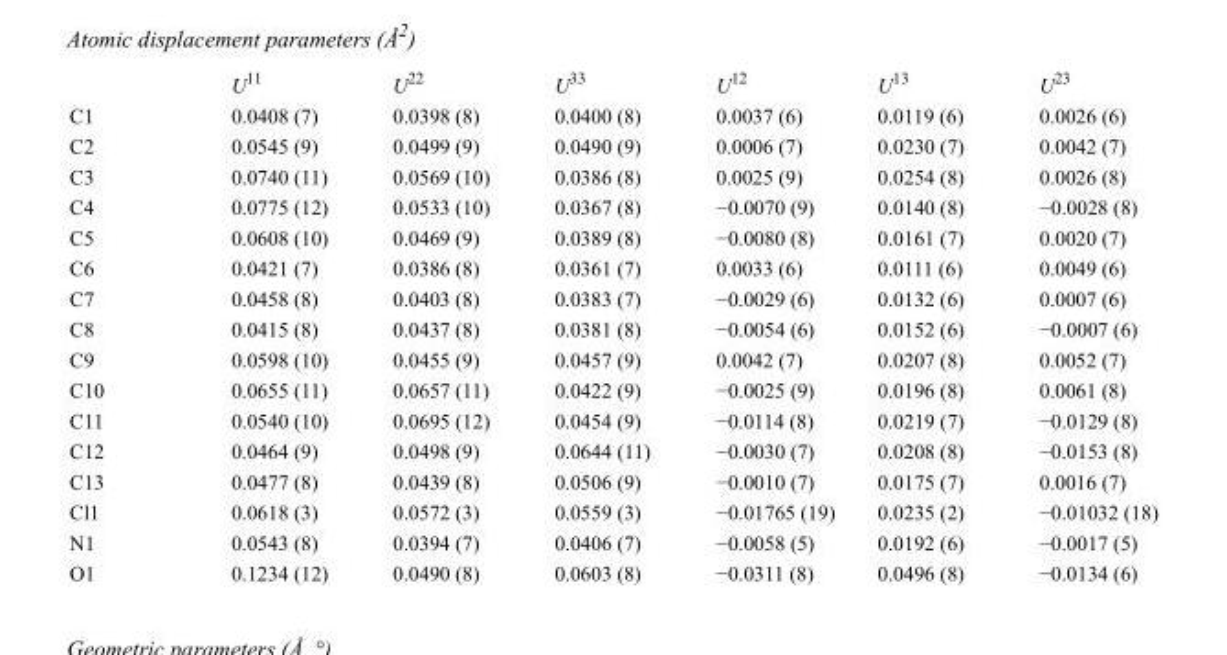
<table><thead><tr><td></td><td>U<sup>11</sup></td><td>U<sup>22</sup></td><td>U<sup>33</sup></td><td>U<sup>12</sup></td><td>U<sup>13</sup></td><td>U<sup>23</sup></td></tr></thead><tbody><tr><td>C1</td><td>0.0408 (7)</td><td>0.0398 (8)</td><td>0.0400 (8)</td><td>0.0037 (6)</td><td>0.0119 (6)</td><td>0.0026 (6)</td></tr><tr><td>C2</td><td>0.0545 (9)</td><td>0.0499 (9)</td><td>0.0490 (9)</td><td>0.0006 (7)</td><td>0.0230 (7)</td><td>0.0042 (7)</td></tr><tr><td>C3</td><td>0.0740 (11)</td><td>0.0569 (10)</td><td>0.0386 (8)</td><td>0.0025 (9)</td><td>0.0254 (8)</td><td>0.0026 (8)</td></tr><tr><td>C4</td><td>0.0775 (12)</td><td>0.0533 (10)</td><td>0.0367 (8)</td><td>−0.0070 (9)</td><td>0.0140 (8)</td><td>−0.0028 (8)</td></tr><tr><td>C5</td><td>0.0608 (10)</td><td>0.0469 (9)</td><td>0.0389 (8)</td><td>−0.0080 (8)</td><td>0.0161 (7)</td><td>0.0020 (7)</td></tr><tr><td>C6</td><td>0.0421 (7)</td><td>0.0386 (8)</td><td>0.0361 (7)</td><td>0.0033 (6)</td><td>0.0111 (6)</td><td>0.0049 (6)</td></tr><tr><td>C7</td><td>0.0458 (8)</td><td>0.0403 (8)</td><td>0.0383 (7)</td><td>−0.0029 (6)</td><td>0.0132 (6)</td><td>0.0007 (6)</td></tr><tr><td>C8</td><td>0.0415 (8)</td><td>0.0437 (8)</td><td>0.0381 (8)</td><td>−0.0054 (6)</td><td>0.0152 (6)</td><td>−0.0007 (6)</td></tr><tr><td>C9</td><td>0.0598 (10)</td><td>0.0455 (9)</td><td>0.0457 (9)</td><td>0.0042 (7)</td><td>0.0207 (8)</td><td>0.0052 (7)</td></tr><tr><td>C10</td><td>0.0655 (11)</td><td>0.0657 (11)</td><td>0.0422 (9)</td><td>−0.0025 (9)</td><td>0.0196 (8)</td><td>0.0061 (8)</td></tr><tr><td>C11</td><td>0.0540 (10)</td><td>0.0695 (12)</td><td>0.0454 (9)</td><td>−0.0114 (8)</td><td>0.0219 (7)</td><td>−0.0129 (8)</td></tr><tr><td>C12</td><td>0.0464 (9)</td><td>0.0498 (9)</td><td>0.0644 (11)</td><td>−0.0030 (7)</td><td>0.0208 (8)</td><td>−0.0153 (8)</td></tr><tr><td>C13</td><td>0.0477 (8)</td><td>0.0439 (8)</td><td>0.0506 (9)</td><td>−0.0010 (7)</td><td>0.0175 (7)</td><td>0.0016 (7)</td></tr><tr><td>Cl1</td><td>0.0618 (3)</td><td>0.0572 (3)</td><td>0.0559 (3)</td><td>−0.01765 (19)</td><td>0.0235 (2)</td><td>−0.01032 (18)</td></tr><tr><td>N1</td><td>0.0543 (8)</td><td>0.0394 (7)</td><td>0.0406 (7)</td><td>−0.0058 (5)</td><td>0.0192 (6)</td><td>−0.0017 (5)</td></tr><tr><td>O1</td><td>0.1234 (12)</td><td>0.0490 (8)</td><td>0.0603 (8)</td><td>−0.0311 (8)</td><td>0.0496 (8)</td><td>−0.0134 (6)</td></tr></tbody></table>